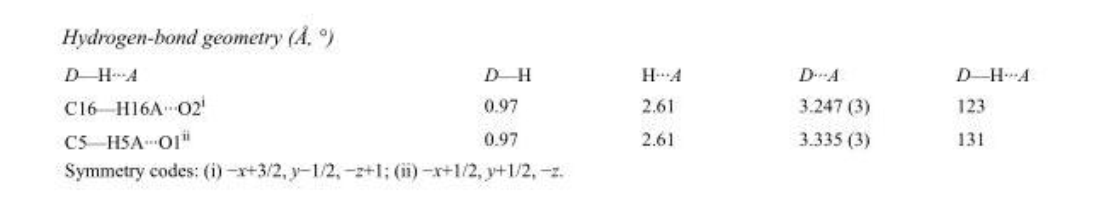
<table><tbody><tr><td>D—H···A</td><td>D—H</td><td>H···A</td><td>D···A</td><td>D—H···A</td></tr><tr><td>C16—H16A···O2<sup>i</sup></td><td>0.97</td><td>2.61</td><td>3.247 (3)</td><td>123</td></tr><tr><td>C5—H5A···O1<sup>ii</sup></td><td>0.97</td><td>2.61</td><td>3.335 (3)</td><td>131</td></tr></tbody></table>